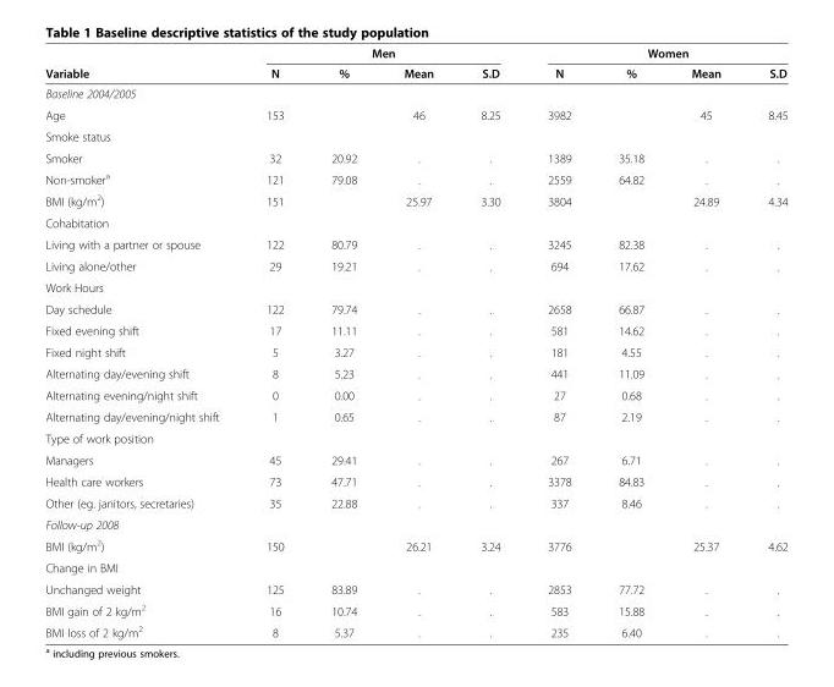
<table><thead><tr><td rowspan="2">Variable</td><td colspan="4">Men</td><td colspan="4">Women</td></tr><tr><td>N</td><td>%</td><td>Mean</td><td>S.D</td><td>N</td><td>%</td><td>Mean</td><td>S.D</td></tr></thead><tbody><tr><td colspan="9">Baseline 2004/2005</td></tr><tr><td>Age</td><td>153</td><td></td><td>46</td><td>8.25</td><td>3982</td><td></td><td>45</td><td>8.45</td></tr><tr><td colspan="9">Smoke status</td></tr><tr><td>Smoker</td><td>32</td><td>20.92</td><td>.</td><td>.</td><td>1389</td><td>35.18</td><td>.</td><td>.</td></tr><tr><td>Non-smoker<sup>a</sup></td><td>121</td><td>79.08</td><td>.</td><td>.</td><td>2559</td><td>64.82</td><td>.</td><td>.</td></tr><tr><td>BMI (kg/m<sup>2</sup>)</td><td>151</td><td></td><td>25.97</td><td>3.30</td><td>3804</td><td></td><td>24.89</td><td>4.34</td></tr><tr><td colspan="9">Cohabitation</td></tr><tr><td>Living with a partner or spouse</td><td>122</td><td>80.79</td><td>.</td><td>.</td><td>3245</td><td>82.38</td><td>.</td><td>.</td></tr><tr><td>Living alone/other</td><td>29</td><td>19.21</td><td>.</td><td>.</td><td>694</td><td>17.62</td><td>.</td><td>.</td></tr><tr><td colspan="9">Work Hours</td></tr><tr><td>Day schedule</td><td>122</td><td>79.74</td><td>.</td><td>.</td><td>2658</td><td>66.87</td><td>.</td><td>.</td></tr><tr><td>Fixed evening shift</td><td>17</td><td>11.11</td><td>.</td><td>.</td><td>581</td><td>14.62</td><td>.</td><td>.</td></tr><tr><td>Fixed night shift</td><td>5</td><td>3.27</td><td>.</td><td>.</td><td>181</td><td>4.55</td><td>.</td><td>.</td></tr><tr><td>Alternating day/evening shift</td><td>8</td><td>5.23</td><td>.</td><td>.</td><td>441</td><td>11.09</td><td>.</td><td>.</td></tr><tr><td>Alternating evening/night shift</td><td>0</td><td>0.00</td><td>.</td><td>.</td><td>27</td><td>0.68</td><td>.</td><td>.</td></tr><tr><td>Alternating day/evening/night shift</td><td>1</td><td>0.65</td><td>.</td><td>.</td><td>87</td><td>2.19</td><td>.</td><td>.</td></tr><tr><td colspan="9">Type of work position</td></tr><tr><td>Managers</td><td>45</td><td>29.41</td><td>.</td><td>.</td><td>267</td><td>6.71</td><td>.</td><td>.</td></tr><tr><td>Health care workers</td><td>73</td><td>47.71</td><td>.</td><td>.</td><td>3378</td><td>84.83</td><td>.</td><td>.</td></tr><tr><td>Other (eg. janitors, secretaries)</td><td>35</td><td>22.88</td><td>.</td><td>.</td><td>337</td><td>8.46</td><td>.</td><td>.</td></tr><tr><td colspan="9">Follow-up 2008</td></tr><tr><td>BMI (kg/m<sup>2</sup>)</td><td>150</td><td></td><td>26.21</td><td>3.24</td><td>3776</td><td></td><td>25.37</td><td>4.62</td></tr><tr><td colspan="9">Change in BMI</td></tr><tr><td>Unchanged weight</td><td>125</td><td>83.89</td><td>.</td><td>.</td><td>2853</td><td>77.72</td><td>.</td><td>.</td></tr><tr><td>BMI gain of 2 kg/m<sup>2</sup></td><td>16</td><td>10.74</td><td>.</td><td>.</td><td>583</td><td>15.88</td><td>.</td><td>.</td></tr><tr><td>BMI loss of 2 kg/m<sup>2</sup></td><td>8</td><td>5.37</td><td>.</td><td>.</td><td>235</td><td>6.40</td><td>.</td><td>.</td></tr></tbody></table>